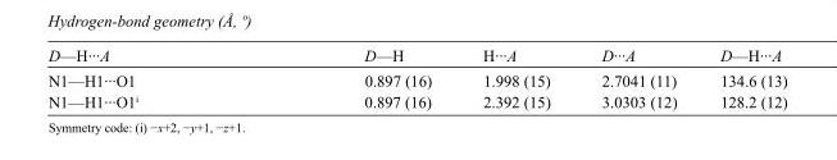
<table><tbody><tr><td>D—H···A</td><td>D—H</td><td>H···A</td><td>D···A</td><td>D—H···A</td></tr><tr><td>N1—H1···O1</td><td>0.897 (16)</td><td>1.998 (15)</td><td>2.7041 (11)</td><td>134.6 (13)</td></tr><tr><td>N1—H1···O1<sup>i</sup></td><td>0.897 (16)</td><td>2.392 (15)</td><td>3.0303 (12)</td><td>128.2 (12)</td></tr></tbody></table>